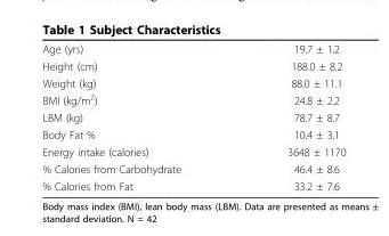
<table><tbody><tr><td>Age (yrs)</td><td>19.7 ± 1.2</td></tr><tr><td>Height (cm)</td><td>188.0 ± 8.2</td></tr><tr><td>Weight (kg)</td><td>88.0 ± 11.1</td></tr><tr><td>BMI (kg/m<sup>2</sup>)</td><td>24.8 ± 2.2</td></tr><tr><td>LBM (kg)</td><td>78.7 ± 8.7</td></tr><tr><td>Body Fat %</td><td>10.4 ± 3.1</td></tr><tr><td>Energy intake (calories)</td><td>3648 ± 1170</td></tr><tr><td>% Calories from Carbohydrate</td><td>46.4 ± 8.6</td></tr><tr><td>% Calories from Fat</td><td>33.2 ± 7.6</td></tr></tbody></table>